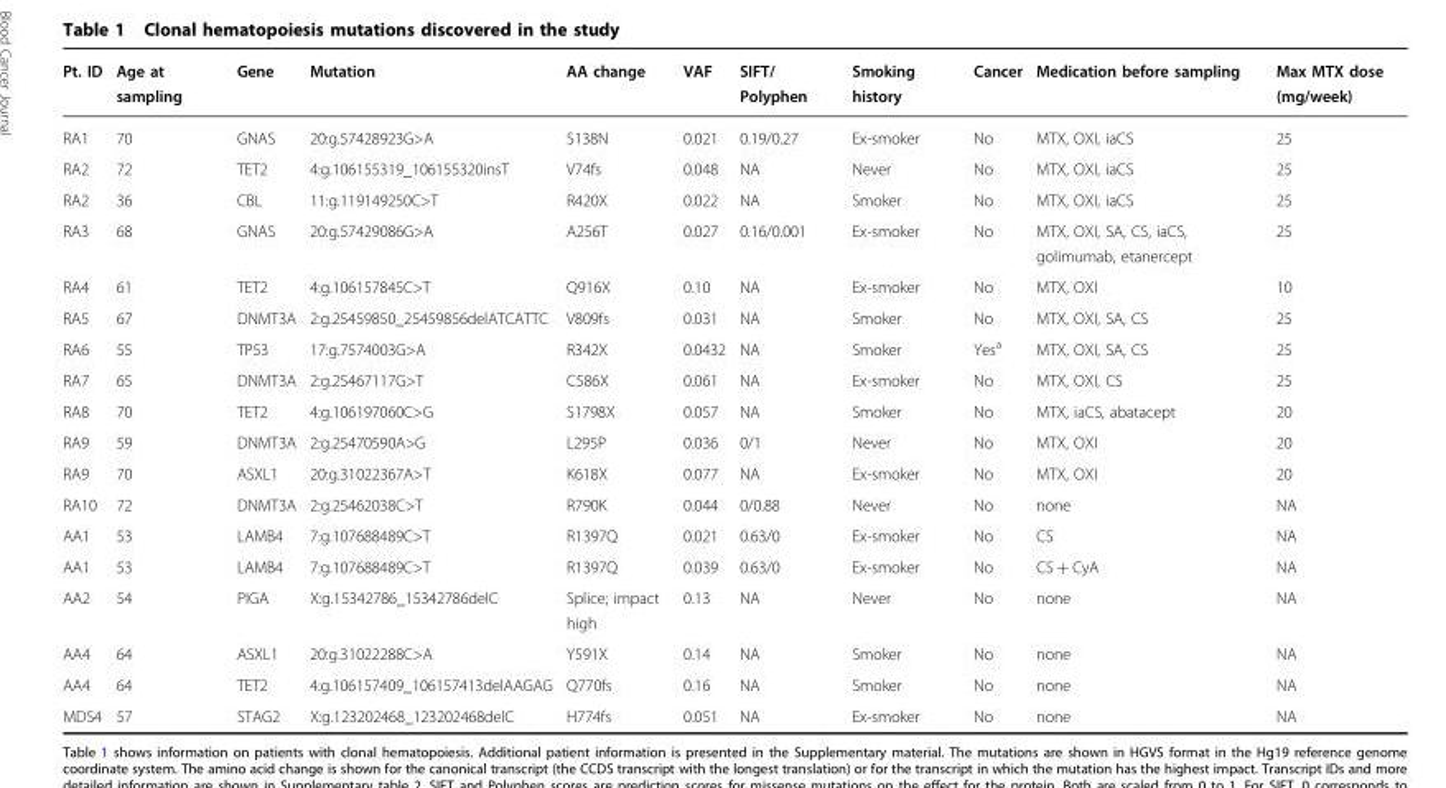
<table><thead><tr><td>Pt. ID</td><td>Age at sampling</td><td>Gene</td><td>Mutation</td><td>AA change</td><td>VAF</td><td>SIFT/ Polyphen</td><td>Smoking history</td><td>Cancer</td><td>Medication before sampling</td><td>Max MTX dose (mg/week)</td></tr></thead><tbody><tr><td>RA1</td><td>70</td><td>GNAS</td><td>20:g.57428923G&gt;A</td><td>S138N</td><td>0.021</td><td>0.19/0.27</td><td>Ex-smoker</td><td>No</td><td>MTX, OXI, iaCS</td><td>25</td></tr><tr><td>RA2</td><td>72</td><td>TET2</td><td>4:g.106155319_106155320insT</td><td>V74fs</td><td>0.048</td><td>NA</td><td>Never</td><td>No</td><td>MTX, OXI, iaCS</td><td>25</td></tr><tr><td>RA2</td><td>36</td><td>CBL</td><td>11:g.119149250C&gt;T</td><td>R420X</td><td>0.022</td><td>NA</td><td>Smoker</td><td>No</td><td>MTX, OXI, iaCS</td><td>25</td></tr><tr><td>RA3</td><td>68</td><td>GNAS</td><td>20:g.57429086G&gt;A</td><td>A256T</td><td>0.027</td><td>0.16/0.001</td><td>Ex-smoker</td><td>No</td><td>MTX, OXI, SA, CS, iaCS, golimumab, etanercept</td><td>25</td></tr><tr><td>RA4</td><td>61</td><td>TET2</td><td>4:g.106157845C&gt;T</td><td>Q916X</td><td>0.10</td><td>NA</td><td>Ex-smoker</td><td>No</td><td>MTX, OXI</td><td>10</td></tr><tr><td>RA5</td><td>67</td><td>DNMT3A</td><td>2:g.25459850_25459856delATCATTC</td><td>V809fs</td><td>0.031</td><td>NA</td><td>Smoker</td><td>No</td><td>MTX, OXI, SA, CS</td><td>25</td></tr><tr><td>RA6</td><td>55</td><td>TP53</td><td>17:g.7574003G&gt;A</td><td>R342X</td><td>0.0432</td><td>NA</td><td>Smoker</td><td>Yes<sup>a</sup></td><td>MTX, OXI, SA, CS</td><td>25</td></tr><tr><td>RA7</td><td>65</td><td>DNMT3A</td><td>2:g.25467117G&gt;T</td><td>C586X</td><td>0.061</td><td>NA</td><td>Ex-smoker</td><td>No</td><td>MTX, OXI, CS</td><td>25</td></tr><tr><td>RA8</td><td>70</td><td>TET2</td><td>4:g.106197060C&gt;G</td><td>S1798X</td><td>0.057</td><td>NA</td><td>Smoker</td><td>No</td><td>MTX, iaCS, abatacept</td><td>20</td></tr><tr><td>RA9</td><td>59</td><td>DNMT3A</td><td>2:g.25470590A&gt;G</td><td>L295P</td><td>0.036</td><td>0/1</td><td>Never</td><td>No</td><td>MTX, OXI</td><td>20</td></tr><tr><td>RA9</td><td>70</td><td>ASXL1</td><td>20:g.31022367A&gt;T</td><td>K618X</td><td>0.077</td><td>NA</td><td>Ex-smoker</td><td>No</td><td>MTX, OXI</td><td>20</td></tr><tr><td>RA10</td><td>72</td><td>DNMT3A</td><td>2:g.25462038C&gt;T</td><td>R790K</td><td>0.044</td><td>0/0.88</td><td>Never</td><td>No</td><td>none</td><td>NA</td></tr><tr><td>AA1</td><td>53</td><td>LAMB4</td><td>7:g.107688489C&gt;T</td><td>R1397Q</td><td>0.021</td><td>0.63/0</td><td>Ex-smoker</td><td>No</td><td>CS</td><td>NA</td></tr><tr><td>AA1</td><td>53</td><td>LAMB4</td><td>7:g.107688489C&gt;T</td><td>R1397Q</td><td>0.039</td><td>0.63/0</td><td>Ex-smoker</td><td>No</td><td>CS + CyA</td><td>NA</td></tr><tr><td>AA2</td><td>54</td><td>PIGA</td><td>X:g.15342786_15342786delC</td><td>Splice; impact high</td><td>0.13</td><td>NA</td><td>Never</td><td>No</td><td>none</td><td>NA</td></tr><tr><td>AA4</td><td>64</td><td>ASXL1</td><td>20:g.31022288C&gt;A</td><td>Y591X</td><td>0.14</td><td>NA</td><td>Smoker</td><td>No</td><td>none</td><td>NA</td></tr><tr><td>AA4</td><td>64</td><td>TET2</td><td>4:g.106157409_106157413delAAGAG</td><td>Q770fs</td><td>0.16</td><td>NA</td><td>Smoker</td><td>No</td><td>none</td><td>NA</td></tr><tr><td>MDS4</td><td>57</td><td>STAG2</td><td>X:g.123202468_123202468delC</td><td>H774fs</td><td>0.051</td><td>NA</td><td>Ex-smoker</td><td>No</td><td>none</td><td>NA</td></tr></tbody></table>